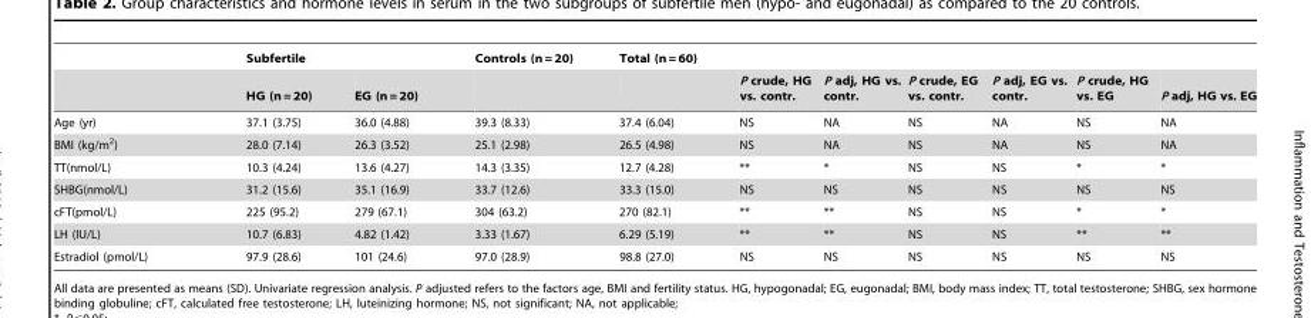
<table><thead><tr><td rowspan="2"></td><td rowspan="2">Subfertile HG (n = 20)</td><td rowspan="2">EG (n = 20)</td><td rowspan="2">Controls (n = 20)</td><td rowspan="2">Total (n = 60)</td><td rowspan="2">P crude, HG vs. contr.</td><td rowspan="2">P adj, HG vs. contr.</td><td rowspan="2">P crude, EG vs. contr.</td><td rowspan="2">P adj, EG vs. contr.</td><td rowspan="2">P crude, HG vs. EG</td><td rowspan="2">P adj, HG vs. EG</td></tr><tr></tr></thead><tbody><tr><td>Age (yr)</td><td>37.1 (3.75)</td><td>36.0 (4.88)</td><td>39.3 (8.33)</td><td>37.4 (6.04)</td><td>NS</td><td>NA</td><td>NS</td><td>NA</td><td>NS</td><td>NA</td></tr><tr><td>BMI (kg/m<sup>2</sup>)</td><td>28.0 (7.14)</td><td>26.3 (3.52)</td><td>25.1 (2.98)</td><td>26.5 (4.98)</td><td>NS</td><td>NA</td><td>NS</td><td>NA</td><td>NS</td><td>NA</td></tr><tr><td>TT(nmol/L)</td><td>10.3 (4.24)</td><td>13.6 (4.27)</td><td>14.3 (3.35)</td><td>12.7 (4.28)</td><td>**</td><td>*</td><td>NS</td><td>NS</td><td>*</td><td>*</td></tr><tr><td>SHBG(nmol/L)</td><td>31.2 (15.6)</td><td>35.1 (16.9)</td><td>33.7 (12.6)</td><td>33.3 (15.0)</td><td>NS</td><td>NS</td><td>NS</td><td>NS</td><td>NS</td><td>NS</td></tr><tr><td>cFT(pmol/L)</td><td>225 (95.2)</td><td>279 (67.1)</td><td>304 (63.2)</td><td>270 (82.1)</td><td>**</td><td>**</td><td>NS</td><td>NS</td><td>*</td><td>*</td></tr><tr><td>LH (IU/L)</td><td>10.7 (6.83)</td><td>4.82 (1.42)</td><td>3.33 (1.67)</td><td>6.29 (5.19)</td><td>**</td><td>**</td><td>NS</td><td>NS</td><td>**</td><td>**</td></tr><tr><td>Estradiol (pmol/L)</td><td>97.9 (28.6)</td><td>101 (24.6)</td><td>97.0 (28.9)</td><td>98.8 (27.0)</td><td>NS</td><td>NS</td><td>NS</td><td>NS</td><td>NS</td><td>NS</td></tr></tbody></table>